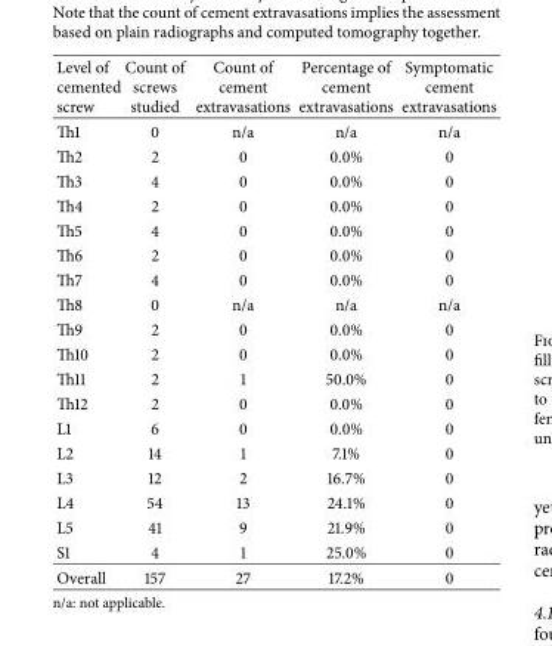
<table><thead><tr><td>Level of cemented screw</td><td>Count of screws studied</td><td>Count of cement extravasations</td><td>Percentage of cement extravasations</td><td>Symptomatic cement extravasations</td></tr></thead><tbody><tr><td>Th1</td><td>0</td><td>n/a</td><td>n/a</td><td>n/a</td></tr><tr><td>Th2</td><td>2</td><td>0</td><td>0.0%</td><td>0</td></tr><tr><td>Th3</td><td>4</td><td>0</td><td>0.0%</td><td>0</td></tr><tr><td>Th4</td><td>2</td><td>0</td><td>0.0%</td><td>0</td></tr><tr><td>Th5</td><td>4</td><td>0</td><td>0.0%</td><td>0</td></tr><tr><td>Th6</td><td>2</td><td>0</td><td>0.0%</td><td>0</td></tr><tr><td>Th7</td><td>4</td><td>0</td><td>0.0%</td><td>0</td></tr><tr><td>Th8</td><td>0</td><td>n/a</td><td>n/a</td><td>n/a</td></tr><tr><td>Th9</td><td>2</td><td>0</td><td>0.0%</td><td>0</td></tr><tr><td>Th10</td><td>2</td><td>0</td><td>0.0%</td><td>0</td></tr><tr><td>Th11</td><td>2</td><td>1</td><td>50.0%</td><td>0</td></tr><tr><td>Th12</td><td>2</td><td>0</td><td>0.0%</td><td>0</td></tr><tr><td>L1</td><td>6</td><td>0</td><td>0.0%</td><td>0</td></tr><tr><td>L2</td><td>14</td><td>1</td><td>7.1%</td><td>0</td></tr><tr><td>L3</td><td>12</td><td>2</td><td>16.7%</td><td>0</td></tr><tr><td>L4</td><td>54</td><td>13</td><td>24.1%</td><td>0</td></tr><tr><td>L5</td><td>41</td><td>9</td><td>21.9%</td><td>0</td></tr><tr><td>S1</td><td>4</td><td>1</td><td>25.0%</td><td>0</td></tr><tr><td>Overall</td><td>157</td><td>27</td><td>17.2%</td><td>0</td></tr></tbody></table>